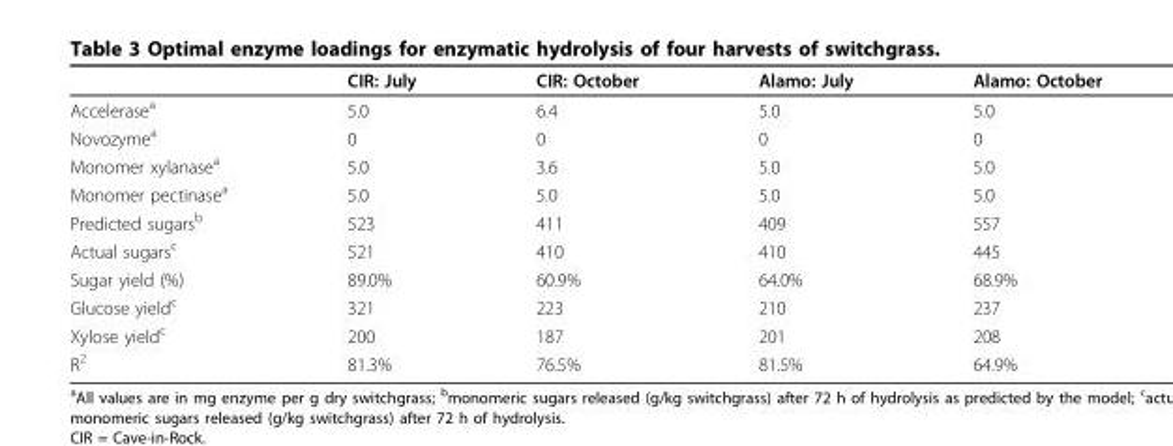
<table><thead><tr><td></td><td>CIR: July</td><td>CIR: October</td><td>Alamo: July</td><td>Alamo: October</td></tr></thead><tbody><tr><td>Accelerase<sup>a</sup></td><td>5.0</td><td>6.4</td><td>5.0</td><td>5.0</td></tr><tr><td>Novozyme<sup>a</sup></td><td>0</td><td>0</td><td>0</td><td>0</td></tr><tr><td>Monomer xylanase<sup>a</sup></td><td>5.0</td><td>3.6</td><td>5.0</td><td>5.0</td></tr><tr><td>Monomer pectinase<sup>a</sup></td><td>5.0</td><td>5.0</td><td>5.0</td><td>5.0</td></tr><tr><td>Predicted sugars<sup>b</sup></td><td>523</td><td>411</td><td>409</td><td>557</td></tr><tr><td>Actual sugars<sup>c</sup></td><td>521</td><td>410</td><td>410</td><td>445</td></tr><tr><td>Sugar yield (%)</td><td>89.0%</td><td>60.9%</td><td>64.0%</td><td>68.9%</td></tr><tr><td>Glucose yield<sup>c</sup></td><td>321</td><td>223</td><td>210</td><td>237</td></tr><tr><td>Xylose yield<sup>c</sup></td><td>200</td><td>187</td><td>201</td><td>208</td></tr><tr><td>R<sup>2</sup></td><td>81.3%</td><td>76.5%</td><td>81.5%</td><td>64.9%</td></tr></tbody></table>